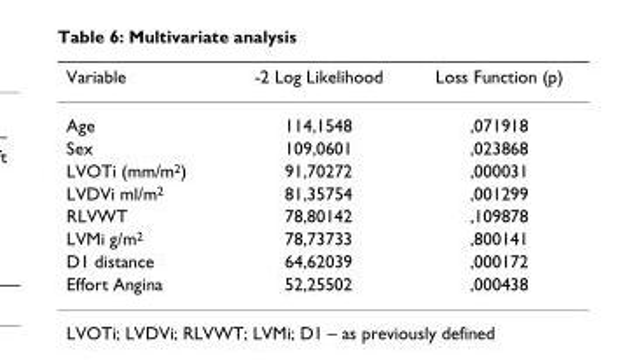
<table><thead><tr><td>Variable</td><td>-2 Log Likelihood</td><td>Loss Function (p)</td></tr></thead><tbody><tr><td>Age</td><td>114,1548</td><td>,071918</td></tr><tr><td>Sex</td><td>109,0601</td><td>,023868</td></tr><tr><td>LVOTi (mm/m<sup>2</sup>)</td><td>91,70272</td><td>,000031</td></tr><tr><td>LVDVi ml/m<sup>2</sup></td><td>81,35754</td><td>,001299</td></tr><tr><td>RLVWT</td><td>78,80142</td><td>,109878</td></tr><tr><td>LVMi g/m<sup>2</sup></td><td>78,73733</td><td>,800141</td></tr><tr><td>D1 distance</td><td>64,62039</td><td>,000172</td></tr><tr><td>Effort Angina</td><td>52,25502</td><td>,000438</td></tr></tbody></table>